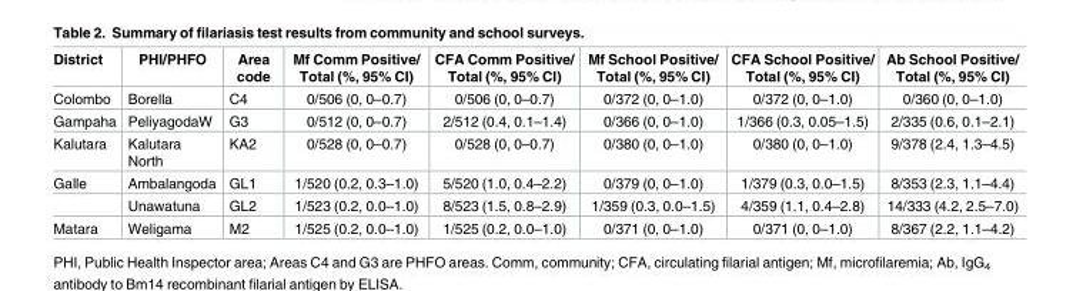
<table><thead><tr><td>District</td><td>PHI/PHFO</td><td>Area code</td><td>Mf Comm Positive/ Total (%, 95% CI)</td><td>CFA Comm Positive/ Total (%, 95% CI)</td><td>Mf School Positive/ Total (%, 95% CI)</td><td>CFA School Positive/ Total (%, 95% CI)</td><td>Ab School Positive/ Total (%, 95% CI)</td></tr></thead><tbody><tr><td>Colombo</td><td>Borella</td><td>C4</td><td>0/506 (0, 0–0.7)</td><td>0/506 (0, 0–0.7)</td><td>0/372 (0, 0–1.0)</td><td>0/372 (0, 0–1.0)</td><td>0/360 (0, 0–1.0)</td></tr><tr><td>Gampaha</td><td>PeliyagodaW</td><td>G3</td><td>0/512 (0, 0–0.7)</td><td>2/512 (0.4, 0.1–1.4)</td><td>0/366 (0, 0–1.0)</td><td>1/366 (0.3, 0.05–1.5)</td><td>2/335 (0.6, 0.1–2.1)</td></tr><tr><td>Kalutara</td><td>Kalutara North</td><td>KA2</td><td>0/528 (0, 0–0.7)</td><td>0/528 (0, 0–0.7)</td><td>0/380 (0, 0–1.0)</td><td>0/380 (0, 0–1.0)</td><td>9/378 (2.4, 1.3–4.5)</td></tr><tr><td rowspan="2">Galle</td><td>Ambalangoda</td><td>GL1</td><td>1/520 (0.2, 0.3–1.0)</td><td>5/520 (1.0, 0.4–2.2)</td><td>0/379 (0, 0–1.0)</td><td>1/379 (0.3, 0.0–1.5)</td><td>8/353 (2.3, 1.1–4.4)</td></tr><tr><td>Unawatuna</td><td>GL2</td><td>1/523 (0.2, 0.0–1.0)</td><td>8/523 (1.5, 0.8–2.9)</td><td>1/359 (0.3, 0.0–1.5)</td><td>4/359 (1.1, 0.4–2.8)</td><td>14/333 (4.2, 2.5–7.0)</td></tr><tr><td>Matara</td><td>Weligama</td><td>M2</td><td>1/525 (0.2, 0.0–1.0)</td><td>1/525 (0.2, 0.0–1.0)</td><td>0/371 (0, 0–1.0)</td><td>0/371 (0, 0–1.0)</td><td>8/367 (2.2, 1.1–4.2)</td></tr></tbody></table>